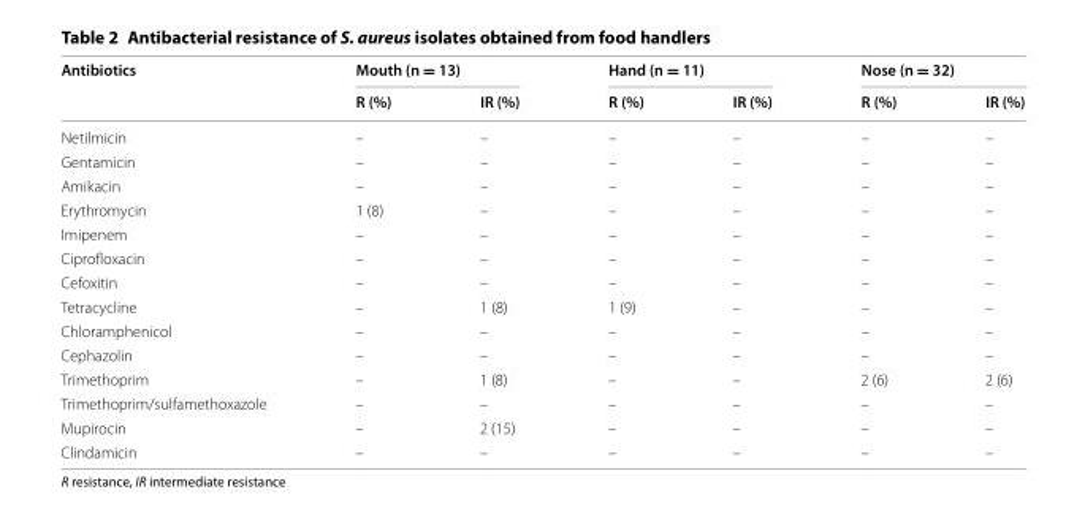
<table><thead><tr><td rowspan="2">Antibiotics</td><td colspan="2">Mouth (n = 13)</td><td colspan="2">Hand (n = 11)</td><td colspan="2">Nose (n = 32)</td></tr><tr><td>R (%)</td><td>IR (%)</td><td>R (%)</td><td>IR (%)</td><td>R (%)</td><td>IR (%)</td></tr></thead><tbody><tr><td>Netilmicin</td><td>–</td><td>–</td><td>–</td><td>–</td><td>–</td><td>–</td></tr><tr><td>Gentamicin</td><td>–</td><td>–</td><td>–</td><td>–</td><td>–</td><td>–</td></tr><tr><td>Amikacin</td><td>–</td><td>–</td><td>–</td><td>–</td><td>–</td><td>–</td></tr><tr><td>Erythromycin</td><td>1 (8)</td><td>–</td><td>–</td><td>–</td><td>–</td><td>–</td></tr><tr><td>Imipenem</td><td>–</td><td>–</td><td>–</td><td>–</td><td>–</td><td>–</td></tr><tr><td>Ciprofloxacin</td><td>–</td><td>–</td><td>–</td><td>–</td><td>–</td><td>–</td></tr><tr><td>Cefoxitin</td><td>–</td><td>–</td><td>–</td><td>–</td><td>–</td><td>–</td></tr><tr><td>Tetracycline</td><td>–</td><td>1 (8)</td><td>1 (9)</td><td>–</td><td>–</td><td>–</td></tr><tr><td>Chloramphenicol</td><td>–</td><td>–</td><td>–</td><td>–</td><td>–</td><td>–</td></tr><tr><td>Cephazolin</td><td>–</td><td>–</td><td>–</td><td>–</td><td>–</td><td>–</td></tr><tr><td>Trimethoprim</td><td>–</td><td>1 (8)</td><td>–</td><td>–</td><td>2 (6)</td><td>2 (6)</td></tr><tr><td>Trimethoprim/sulfamethoxazole</td><td>–</td><td>–</td><td>–</td><td>–</td><td>–</td><td>–</td></tr><tr><td>Mupirocin</td><td>–</td><td>2 (15)</td><td>–</td><td>–</td><td>–</td><td>–</td></tr><tr><td>Clindamicin</td><td>–</td><td>–</td><td>–</td><td>–</td><td>–</td><td>–</td></tr></tbody></table>